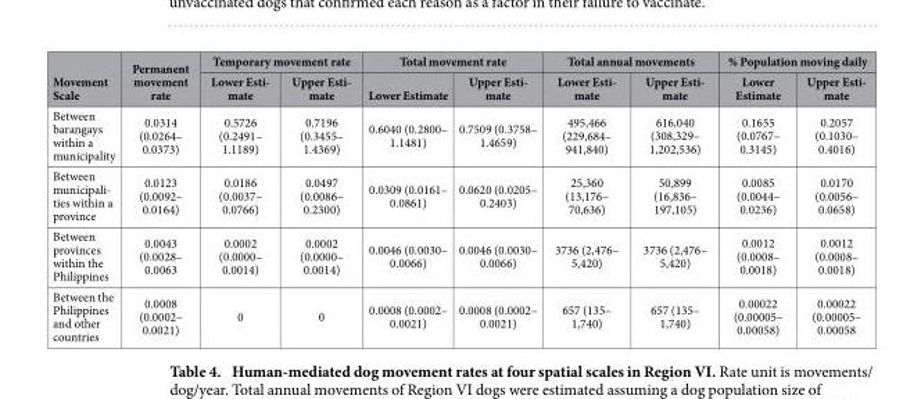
<table><thead><tr><td rowspan="2">Movement Scale</td><td rowspan="2">Permanent movement rate</td><td colspan="2">Temporary movement rate</td><td colspan="2">Total movement rate</td><td colspan="2">Total annual movements</td><td colspan="2">% Population moving daily</td></tr><tr><td>Lower Esti- mate</td><td>Upper Esti- mate</td><td>Lower Estimate</td><td>Upper Esti- mate</td><td>Lower Esti- mate</td><td>Upper Esti- mate</td><td>Lower Estimate</td><td>Upper Esti- mate</td></tr></thead><tbody><tr><td>Between barangays within a municipality</td><td>0.0314 (0.0264– 0.0373)</td><td>0.5726 (0.2491– 1.1189)</td><td>0.7196 (0.3455– 1.4369)</td><td>0.6040 (0.2800– 1.1481)</td><td>0.7509 (0.3758– 1.4659)</td><td>495,466 (229,684– 941,840)</td><td>616,040 (308,329– 1,202,536)</td><td>0.1655 (0.0767– 0.3145)</td><td>0.2057 (0.1030– 0.4016)</td></tr><tr><td>Between municipali- ties within a province</td><td>0.0123 (0.0092– 0.0164)</td><td>0.0186 (0.0037– 0.0766)</td><td>0.0497 (0.0086– 0.2300)</td><td>0.0309 (0.0161– 0.0861)</td><td>0.0620 (0.0205– 0.2403)</td><td>25,360 (13,176– 70,636)</td><td>50,899 (16,836– 197,105)</td><td>0.0085 (0.0044– 0.0236)</td><td>0.0170 (0.0056– 0.0658)</td></tr><tr><td>Between provinces within the Philippines</td><td>0.0043 (0.0028– 0.0063</td><td>0.0002 (0.0000– 0.0014)</td><td>0.0002 (0.0000– 0.0014)</td><td>0.0046 (0.0030– 0.0066)</td><td>0.0046 (0.0030– 0.0066)</td><td>3736 (2,476– 5,420)</td><td>3736 (2,476– 5,420)</td><td>0.0012 (0.0008– 0.0018)</td><td>0.0012 (0.0008– 0.0018)</td></tr><tr><td>Between the Philippines and other countries</td><td>0.0008 (0.0002– 0.0021)</td><td>0</td><td>0</td><td>0.0008 (0.0002– 0.0021)</td><td>0.0008 (0.0002– 0.0021)</td><td>657 (135– 1,740)</td><td>657 (135– 1,740)</td><td>0.00022 (0.00005– 0.00058)</td><td>0.00022 (0.00005– 0.00058</td></tr></tbody></table>